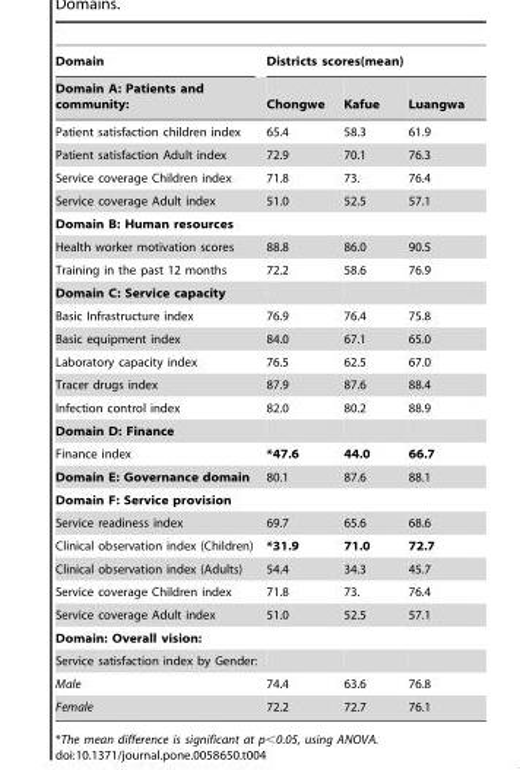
<table><thead><tr><td rowspan="2">Domain Domain A: Patients and community:</td><td colspan="3">Districts scores(mean)</td></tr><tr><td>Chongwe</td><td>Kafue</td><td>Luangwa</td></tr></thead><tbody><tr><td>Patient satisfaction children index</td><td>65.4</td><td>58.3</td><td>61.9</td></tr><tr><td>Patient satisfaction Adult index</td><td>72.9</td><td>70.1</td><td>76.3</td></tr><tr><td>Service coverage Children index</td><td>71.8</td><td>73.</td><td>76.4</td></tr><tr><td>Service coverage Adult index</td><td>51.0</td><td>52.5</td><td>57.1</td></tr><tr><td colspan="4">Domain B: Human resources</td></tr><tr><td>Health worker motivation scores</td><td>88.8</td><td>86.0</td><td>90.5</td></tr><tr><td>Training in the past 12 months</td><td>72.2</td><td>58.6</td><td>76.9</td></tr><tr><td colspan="4">Domain C: Service capacity</td></tr><tr><td>Basic Infrastructure index</td><td>76.9</td><td>76.4</td><td>75.8</td></tr><tr><td>Basic equipment index</td><td>84.0</td><td>67.1</td><td>65.0</td></tr><tr><td>Laboratory capacity index</td><td>76.5</td><td>62.5</td><td>67.0</td></tr><tr><td>Tracer drugs index</td><td>87.9</td><td>87.6</td><td>88.4</td></tr><tr><td>Infection control index</td><td>82.0</td><td>80.2</td><td>88.9</td></tr><tr><td colspan="4">Domain D: Finance</td></tr><tr><td>Finance index</td><td>*47.6</td><td>44.0</td><td>66.7</td></tr><tr><td>Domain E: Governance domain</td><td>80.1</td><td>87.6</td><td>88.1</td></tr><tr><td colspan="4">Domain F: Service provision</td></tr><tr><td>Service readiness index</td><td>69.7</td><td>65.6</td><td>68.6</td></tr><tr><td>Clinical observation index (Children)</td><td>*31.9</td><td>71.0</td><td>72.7</td></tr><tr><td>Clinical observation index (Adults)</td><td>54.4</td><td>34.3</td><td>45.7</td></tr><tr><td>Service coverage Children index</td><td>71.8</td><td>73.</td><td>76.4</td></tr><tr><td>Service coverage Adult index</td><td>51.0</td><td>52.5</td><td>57.1</td></tr><tr><td colspan="4">Domain: Overall vision:</td></tr><tr><td colspan="4">Service satisfaction index by Gender:</td></tr><tr><td>Male</td><td>74.4</td><td>63.6</td><td>76.8</td></tr><tr><td>Female</td><td>72.2</td><td>72.7</td><td>76.1</td></tr></tbody></table>